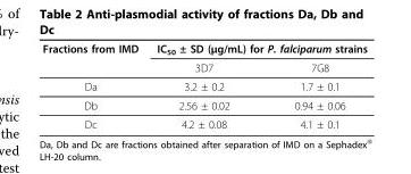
<table><thead><tr><td rowspan="2">Fractions from IMD</td><td colspan="2">IC<sub>50</sub> ± SD (μg/mL) for P. falciparum strains</td></tr><tr><td>3D7</td><td>7G8</td></tr></thead><tbody><tr><td>Da</td><td>3.2 ± 0.2</td><td>1.7 ± 0.1</td></tr><tr><td>Db</td><td>2.56 ± 0.02</td><td>0.94 ± 0.06</td></tr><tr><td>Dc</td><td>4.2 ± 0.08</td><td>4.1 ± 0.1</td></tr></tbody></table>